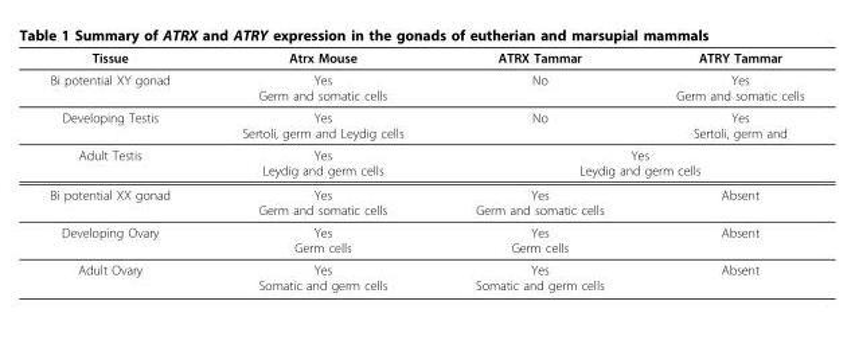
<table><thead><tr><td>Tissue</td><td>Atrx Mouse</td><td>ATRX Tammar</td><td>ATRY Tammar</td></tr></thead><tbody><tr><td>Bi potential XY gonad</td><td>Yes Germ and somatic cells</td><td>No</td><td>Yes Germ and somatic cells</td></tr><tr><td>Developing Testis</td><td>Yes Sertoli, germ and Leydig cells</td><td>No</td><td>Yes Sertoli, germ and</td></tr><tr><td>Adult Testis</td><td>Yes Leydig and germ cells</td><td colspan="2">Yes Leydig and germ cells</td></tr><tr><td>Bi potential XX gonad</td><td>Yes Germ and somatic cells</td><td>Yes Germ and somatic cells</td><td>Absent</td></tr><tr><td>Developing Ovary</td><td>Yes Germ cells</td><td>Yes Germ cells</td><td>Absent</td></tr><tr><td>Adult Ovary</td><td>Yes Somatic and germ cells</td><td>Yes Somatic and germ cells</td><td>Absent</td></tr></tbody></table>